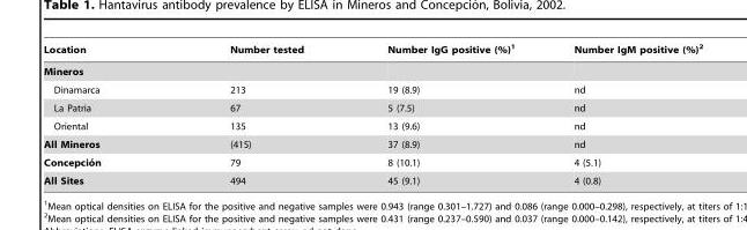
<table><thead><tr><td>Location</td><td>Number tested</td><td>Number IgG positive (%)<sup>1</sup></td><td>Number IgM positive (%)<sup>2</sup></td></tr></thead><tbody><tr><td colspan="4">Mineros</td></tr><tr><td>Dinamarca</td><td>213</td><td>19 (8.9)</td><td>nd</td></tr><tr><td>La Patria</td><td>67</td><td>5 (7.5)</td><td>nd</td></tr><tr><td>Oriental</td><td>135</td><td>13 (9.6)</td><td>nd</td></tr><tr><td>All Mineros</td><td>(415)</td><td>37 (8.9)</td><td>nd</td></tr><tr><td>Concepcio´ n</td><td>79</td><td>8 (10.1)</td><td>4 (5.1)</td></tr><tr><td>All Sites</td><td>494</td><td>45 (9.1)</td><td>4 (0.8)</td></tr></tbody></table>